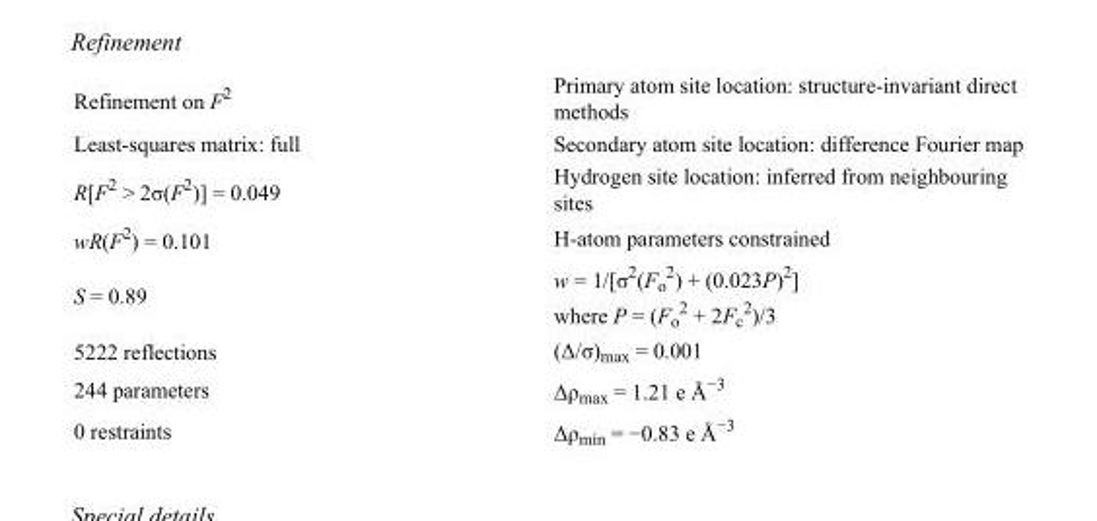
<table><tbody><tr><td>Refinement on F<sup>2</sup></td><td>Primary atom site location: structure-invariant direct methods</td></tr><tr><td>Least-squares matrix: full</td><td>Secondary atom site location: difference Fourier map</td></tr><tr><td>R[F<sup>2</sup> &gt; 2σ(F<sup>2</sup>)] = 0.049</td><td>Hydrogen site location: inferred from neighbouring sites</td></tr><tr><td>wR(F<sup>2</sup>) = 0.101</td><td>H-atom parameters constrained</td></tr><tr><td>S = 0.89</td><td>w = 1/[σ<sup>2</sup>(F<sub>o</sub> <sup>2</sup>) + (0.023P)<sup>2</sup>] where P = (F<sub>o</sub> <sup>2</sup> + 2F<sub>c</sub> <sup>2</sup>)/3</td></tr><tr><td>5222 reflections</td><td>(Δ/σ)<sub>max</sub> = 0.001</td></tr><tr><td>244 parameters</td><td>Δρ<sub>max</sub> = 1.21 e Å<sup>−3</sup></td></tr><tr><td>0 restraints</td><td>Δρ<sub>min</sub> = −0.83 e Å<sup>−3</sup></td></tr></tbody></table>